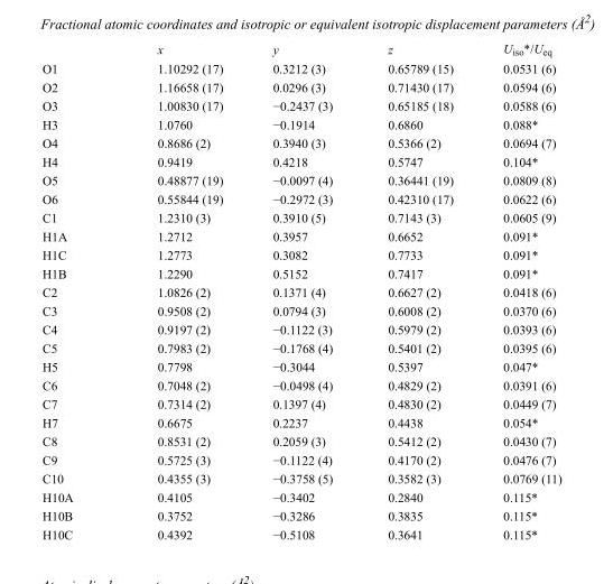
<table><thead><tr><td></td><td>x</td><td>y</td><td>z</td><td>U<sub>iso</sub>*/U<sub>eq</sub></td></tr></thead><tbody><tr><td>O1</td><td>1.10292 (17)</td><td>0.3212 (3)</td><td>0.65789 (15)</td><td>0.0531 (6)</td></tr><tr><td>O2</td><td>1.16658 (17)</td><td>0.0296 (3)</td><td>0.71430 (17)</td><td>0.0594 (6)</td></tr><tr><td>O3</td><td>1.00830 (17)</td><td>−0.2437 (3)</td><td>0.65185 (18)</td><td>0.0588 (6)</td></tr><tr><td>H3</td><td>1.0760</td><td>−0.1914</td><td>0.6860</td><td>0.088*</td></tr><tr><td>O4</td><td>0.8686 (2)</td><td>0.3940 (3)</td><td>0.5366 (2)</td><td>0.0694 (7)</td></tr><tr><td>H4</td><td>0.9419</td><td>0.4218</td><td>0.5747</td><td>0.104*</td></tr><tr><td>O5</td><td>0.48877 (19)</td><td>−0.0097 (4)</td><td>0.36441 (19)</td><td>0.0809 (8)</td></tr><tr><td>O6</td><td>0.55844 (19)</td><td>−0.2972 (3)</td><td>0.42310 (17)</td><td>0.0622 (6)</td></tr><tr><td>C1</td><td>1.2310 (3)</td><td>0.3910 (5)</td><td>0.7143 (3)</td><td>0.0605 (9)</td></tr><tr><td>H1A</td><td>1.2712</td><td>0.3957</td><td>0.6652</td><td>0.091*</td></tr><tr><td>H1C</td><td>1.2773</td><td>0.3082</td><td>0.7733</td><td>0.091*</td></tr><tr><td>H1B</td><td>1.2290</td><td>0.5152</td><td>0.7417</td><td>0.091*</td></tr><tr><td>C2</td><td>1.0826 (2)</td><td>0.1371 (4)</td><td>0.6627 (2)</td><td>0.0418 (6)</td></tr><tr><td>C3</td><td>0.9508 (2)</td><td>0.0794 (3)</td><td>0.6008 (2)</td><td>0.0370 (6)</td></tr><tr><td>C4</td><td>0.9197 (2)</td><td>−0.1122 (3)</td><td>0.5979 (2)</td><td>0.0393 (6)</td></tr><tr><td>C5</td><td>0.7983 (2)</td><td>−0.1768 (4)</td><td>0.5401 (2)</td><td>0.0395 (6)</td></tr><tr><td>H5</td><td>0.7798</td><td>−0.3044</td><td>0.5397</td><td>0.047*</td></tr><tr><td>C6</td><td>0.7048 (2)</td><td>−0.0498 (4)</td><td>0.4829 (2)</td><td>0.0391 (6)</td></tr><tr><td>C7</td><td>0.7314 (2)</td><td>0.1397 (4)</td><td>0.4830 (2)</td><td>0.0449 (7)</td></tr><tr><td>H7</td><td>0.6675</td><td>0.2237</td><td>0.4438</td><td>0.054*</td></tr><tr><td>C8</td><td>0.8531 (2)</td><td>0.2059 (3)</td><td>0.5412 (2)</td><td>0.0430 (7)</td></tr><tr><td>C9</td><td>0.5725 (3)</td><td>−0.1122 (4)</td><td>0.4170 (2)</td><td>0.0476 (7)</td></tr><tr><td>C10</td><td>0.4355 (3)</td><td>−0.3758 (5)</td><td>0.3582 (3)</td><td>0.0769 (11)</td></tr><tr><td>H10A</td><td>0.4105</td><td>−0.3402</td><td>0.2840</td><td>0.115*</td></tr><tr><td>H10B</td><td>0.3752</td><td>−0.3286</td><td>0.3835</td><td>0.115*</td></tr><tr><td>H10C</td><td>0.4392</td><td>−0.5108</td><td>0.3641</td><td>0.115*</td></tr></tbody></table>